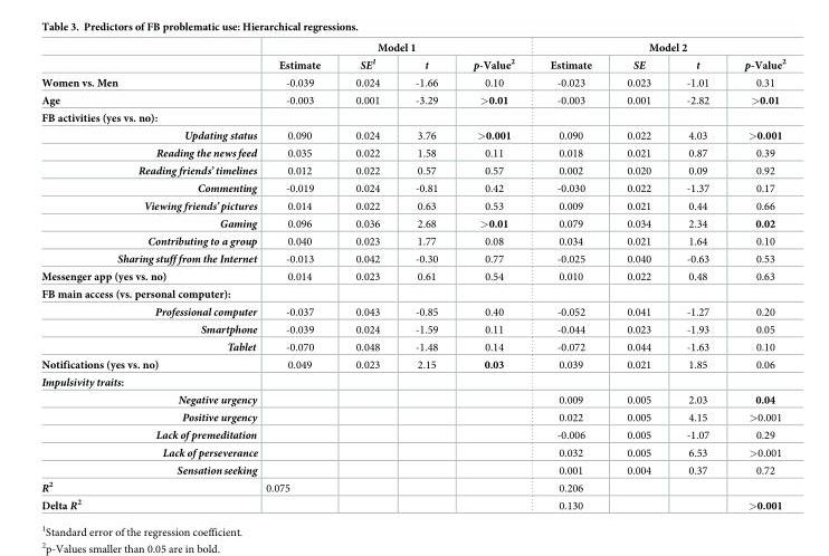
<table><thead><tr><td rowspan="2"></td><td colspan="4">Model 1</td><td colspan="4">Model 2</td></tr><tr><td>Estimate</td><td>SE<sup>1</sup></td><td>t</td><td>p-Value<sup>2</sup></td><td>Estimate</td><td>SE</td><td>t</td><td>p-Value<sup>2</sup></td></tr></thead><tbody><tr><td>Women vs. Men</td><td>-0.039</td><td>0.024</td><td>-1.66</td><td>0.10</td><td>-0.023</td><td>0.023</td><td>-1.01</td><td>0.31</td></tr><tr><td>Age</td><td>-0.003</td><td>0.001</td><td>-3.29</td><td>&gt;0.01</td><td>-0.003</td><td>0.001</td><td>-2.82</td><td>&gt;0.01</td></tr><tr><td colspan="9">FB activities (yes vs. no):</td></tr><tr><td>Updating status</td><td>0.090</td><td>0.024</td><td>3.76</td><td>&gt;0.001</td><td>0.090</td><td>0.022</td><td>4.03</td><td>&gt;0.001</td></tr><tr><td>Reading the news feed</td><td>0.035</td><td>0.022</td><td>1.58</td><td>0.11</td><td>0.018</td><td>0.021</td><td>0.87</td><td>0.39</td></tr><tr><td>Reading friends’ timelines</td><td>0.012</td><td>0.022</td><td>0.57</td><td>0.57</td><td>0.002</td><td>0.020</td><td>0.09</td><td>0.92</td></tr><tr><td>Commenting</td><td>-0.019</td><td>0.024</td><td>-0.81</td><td>0.42</td><td>-0.030</td><td>0.022</td><td>-1.37</td><td>0.17</td></tr><tr><td>Viewing friends’ pictures</td><td>0.014</td><td>0.022</td><td>0.63</td><td>0.53</td><td>0.009</td><td>0.021</td><td>0.44</td><td>0.66</td></tr><tr><td>Gaming</td><td>0.096</td><td>0.036</td><td>2.68</td><td>&gt;0.01</td><td>0.079</td><td>0.034</td><td>2.34</td><td>0.02</td></tr><tr><td>Contributing to a group</td><td>0.040</td><td>0.023</td><td>1.77</td><td>0.08</td><td>0.034</td><td>0.021</td><td>1.64</td><td>0.10</td></tr><tr><td>Sharing stuff from the Internet</td><td>-0.013</td><td>0.042</td><td>-0.30</td><td>0.77</td><td>-0.025</td><td>0.040</td><td>-0.63</td><td>0.53</td></tr><tr><td>Messenger app (yes vs. no)</td><td>0.014</td><td>0.023</td><td>0.61</td><td>0.54</td><td>0.010</td><td>0.022</td><td>0.48</td><td>0.63</td></tr><tr><td colspan="9">FB main access (vs. personal computer):</td></tr><tr><td>Professional computer</td><td>-0.037</td><td>0.043</td><td>-0.85</td><td>0.40</td><td>-0.052</td><td>0.041</td><td>-1.27</td><td>0.20</td></tr><tr><td>Smartphone</td><td>-0.039</td><td>0.024</td><td>-1.59</td><td>0.11</td><td>-0.044</td><td>0.023</td><td>-1.93</td><td>0.05</td></tr><tr><td>Tablet</td><td>-0.070</td><td>0.048</td><td>-1.48</td><td>0.14</td><td>-0.072</td><td>0.044</td><td>-1.63</td><td>0.10</td></tr><tr><td>Notifications (yes vs. no)</td><td>0.049</td><td>0.023</td><td>2.15</td><td>0.03</td><td>0.039</td><td>0.021</td><td>1.85</td><td>0.06</td></tr><tr><td colspan="9">Impulsivity traits:</td></tr><tr><td>Negative urgency</td><td></td><td></td><td></td><td></td><td>0.009</td><td>0.005</td><td>2.03</td><td>0.04</td></tr><tr><td>Positive urgency</td><td></td><td></td><td></td><td></td><td>0.022</td><td>0.005</td><td>4.15</td><td>&gt;0.001</td></tr><tr><td>Lack of premeditation</td><td></td><td></td><td></td><td></td><td>-0.006</td><td>0.005</td><td>-1.07</td><td>0.29</td></tr><tr><td>Lack of perseverance</td><td></td><td></td><td></td><td></td><td>0.032</td><td>0.005</td><td>6.53</td><td>&gt;0.001</td></tr><tr><td>Sensationseeking</td><td></td><td></td><td></td><td></td><td>0.001</td><td>0.004</td><td>0.37</td><td>0.72</td></tr><tr><td>R<sup>2</sup></td><td>0.075</td><td></td><td></td><td></td><td>0.206</td><td></td><td></td><td></td></tr><tr><td>Delta R<sup>2</sup></td><td></td><td></td><td></td><td></td><td>0.130</td><td></td><td></td><td>&gt;0.001</td></tr></tbody></table>